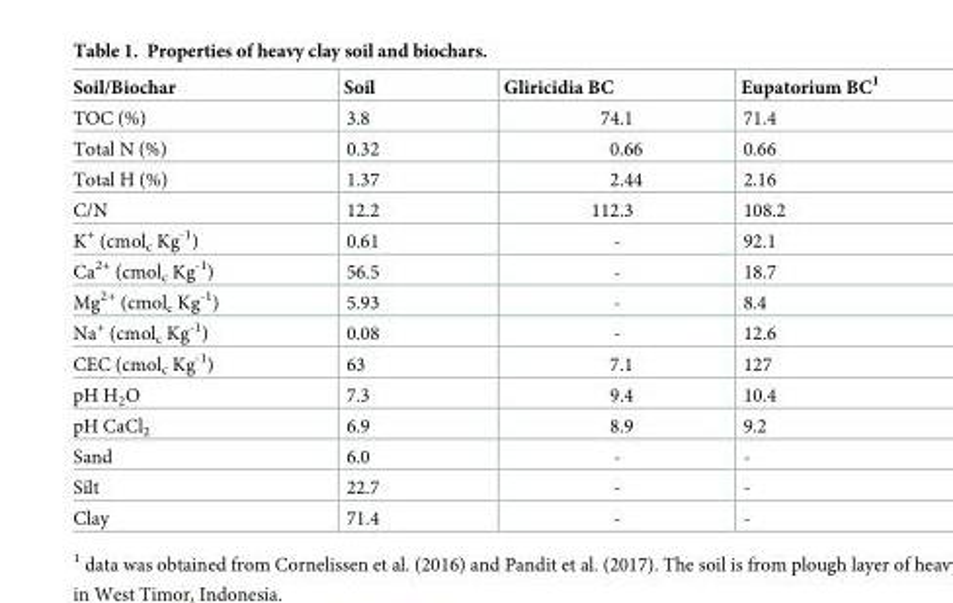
<table><thead><tr><td>Soil/Biochar</td><td>Soil</td><td>Gliricidia BC</td><td>Eupatorium BC<sup>1</sup></td></tr></thead><tbody><tr><td>TOC (%)</td><td>3.8</td><td>74.1</td><td>71.4</td></tr><tr><td>Total N (%)</td><td>0.32</td><td>0.66</td><td>0.66</td></tr><tr><td>Total H (%)</td><td>1.37</td><td>2.44</td><td>2.16</td></tr><tr><td>C/N</td><td>12.2</td><td>112.3</td><td>108.2</td></tr><tr><td>K<sup>+</sup> (cmol<sub>c</sub> Kg<sup>-1</sup>)</td><td>0.61</td><td>-</td><td>92.1</td></tr><tr><td>Ca<sup>2+</sup> (cmol<sub>c</sub> Kg<sup>-1</sup>)</td><td>56.5</td><td>-</td><td>18.7</td></tr><tr><td>Mg<sup>2+</sup> (cmol<sub>c</sub> Kg<sup>-1</sup>)</td><td>5.93</td><td>-</td><td>8.4</td></tr><tr><td>Na<sup>+</sup> (cmol<sub>c</sub> Kg<sup>-1</sup>)</td><td>0.08</td><td>-</td><td>12.6</td></tr><tr><td>CEC (cmol<sub>c</sub> Kg<sup>-1</sup>)</td><td>63</td><td>7.1</td><td>127</td></tr><tr><td>pH H<sub>2</sub>O</td><td>7.3</td><td>9.4</td><td>10.4</td></tr><tr><td>pH CaCl<sub>2</sub></td><td>6.9</td><td>8.9</td><td>9.2</td></tr><tr><td>Sand</td><td>6.0</td><td>-</td><td>-</td></tr><tr><td>Silt</td><td>22.7</td><td>-</td><td>-</td></tr><tr><td>Clay</td><td>71.4</td><td>-</td><td>-</td></tr></tbody></table>